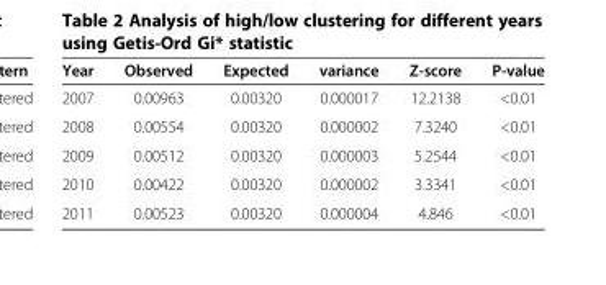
<table><thead><tr><td>Year</td><td>Observed</td><td>Expected</td><td>variance</td><td>Z-score</td><td>P-value</td></tr></thead><tbody><tr><td>2007</td><td>0.00963</td><td>0.00320</td><td>0.000017</td><td>12.2138</td><td>&lt;0.01</td></tr><tr><td>2008</td><td>0.00554</td><td>0.00320</td><td>0.000002</td><td>7.3240</td><td>&lt;0.01</td></tr><tr><td>2009</td><td>0.00512</td><td>0.00320</td><td>0.000003</td><td>5.2544</td><td>&lt;0.01</td></tr><tr><td>2010</td><td>0.00422</td><td>0.00320</td><td>0.000002</td><td>3.3341</td><td>&lt;0.01</td></tr><tr><td>2011</td><td>0.00523</td><td>0.00320</td><td>0.000004</td><td>4.846</td><td>&lt;0.01</td></tr></tbody></table>